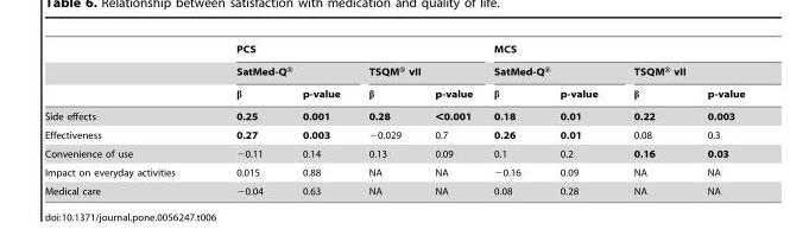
<table><thead><tr><td rowspan="3"></td><td colspan="4">PCS</td><td colspan="4">MCS</td></tr><tr><td colspan="2">SatMed-Q®</td><td colspan="2">TSQM® vII</td><td colspan="2">SatMed-Q®</td><td colspan="2">TSQM® vII</td></tr><tr><td>β</td><td>p-value</td><td>β</td><td>p-value</td><td>β</td><td>p-value</td><td>β</td><td>p-value</td></tr></thead><tbody><tr><td>Side effects</td><td>0.25</td><td>0.001</td><td>0.28</td><td>&lt;0.001</td><td>0.18</td><td>0.01</td><td>0.22</td><td>0.003</td></tr><tr><td>Effectiveness</td><td>0.27</td><td>0.003</td><td>−0.029</td><td>0.7</td><td>0.26</td><td>0.01</td><td>0.08</td><td>0.3</td></tr><tr><td>Convenience of use</td><td>−0.11</td><td>0.14</td><td>0.13</td><td>0.09</td><td>0.1</td><td>0.2</td><td>0.16</td><td>0.03</td></tr><tr><td>Impact on everyday activities</td><td>0.015</td><td>0.88</td><td>NA</td><td>NA</td><td>−0.16</td><td>0.09</td><td>NA</td><td>NA</td></tr><tr><td>Medical care</td><td>−0.04</td><td>0.63</td><td>NA</td><td>NA</td><td>0.08</td><td>0.28</td><td>NA</td><td>NA</td></tr></tbody></table>